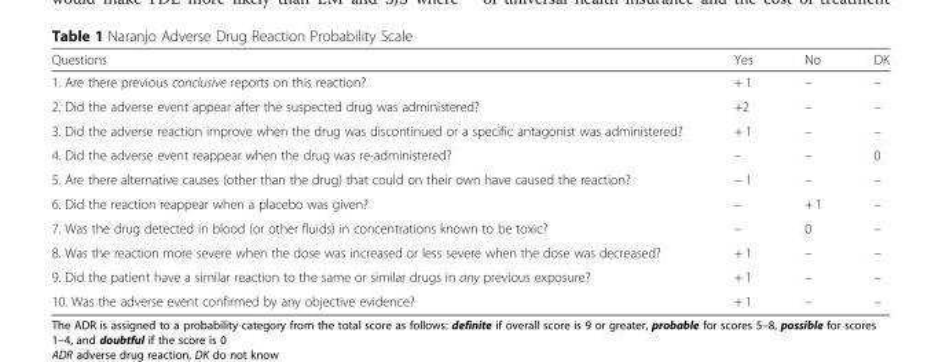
<table><thead><tr><td>Questions</td><td>Yes</td><td>No</td><td>DK</td></tr></thead><tbody><tr><td>1. Are there previous conclusive reports on this reaction?</td><td>+ 1</td><td>–</td><td>–</td></tr><tr><td>2. Did the adverse event appear after the suspected drug was administered?</td><td>+2</td><td>–</td><td>–</td></tr><tr><td>3. Did the adverse reaction improve when the drug was discontinued or a specific antagonist was administered?</td><td>+ 1</td><td>–</td><td>–</td></tr><tr><td>4. Did the adverse event reappear when the drug was re-administered?</td><td>–</td><td>–</td><td>0</td></tr><tr><td>5. Are there alternative causes (other than the drug) that could on their own have caused the reaction?</td><td>− 1</td><td>–</td><td>–</td></tr><tr><td>6. Did the reaction reappear when a placebo was given?</td><td>–</td><td>+ 1</td><td>–</td></tr><tr><td>7. Was the drug detected in blood (or other fluids) in concentrations known to be toxic?</td><td>–</td><td>0</td><td>–</td></tr><tr><td>8. Was the reaction more severe when the dose was increased or less severe when the dose was decreased?</td><td>+ 1</td><td>–</td><td>–</td></tr><tr><td>9. Did the patient have a similar reaction to the same or similar drugs in any previous exposure?</td><td>+ 1</td><td>–</td><td>–</td></tr><tr><td>10. Was the adverse event confirmed by any objective evidence?</td><td>+ 1</td><td>–</td><td>–</td></tr></tbody></table>